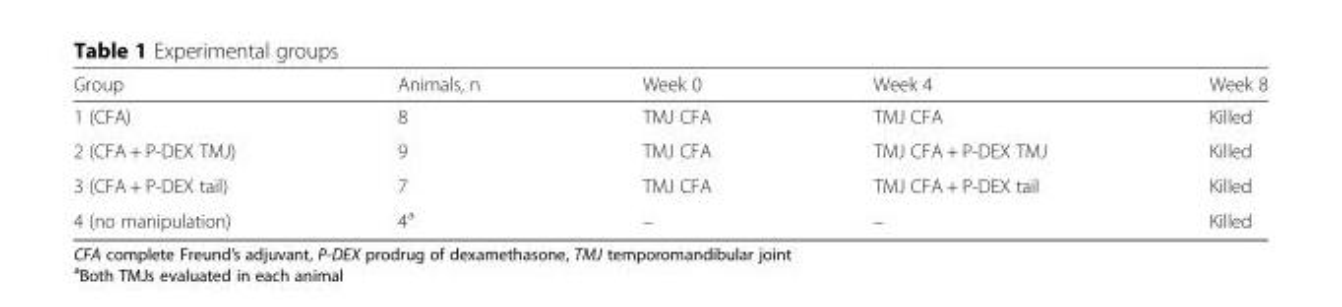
<table><thead><tr><td>Group</td><td>Animals, n</td><td>Week 0</td><td>Week 4</td><td>Week 8</td></tr></thead><tbody><tr><td>1 (CFA)</td><td>8</td><td>TMJ CFA</td><td>TMJ CFA</td><td>Killed</td></tr><tr><td>2 (CFA + P-DEX TMJ)</td><td>9</td><td>TMJ CFA</td><td>TMJ CFA + P-DEX TMJ</td><td>Killed</td></tr><tr><td>3 (CFA + P-DEX tail)</td><td>7</td><td>TMJ CFA</td><td>TMJ CFA + P-DEX tail</td><td>Killed</td></tr><tr><td>4 (no manipulation)</td><td>4<sup>a</sup></td><td>–</td><td>–</td><td>Killed</td></tr></tbody></table>